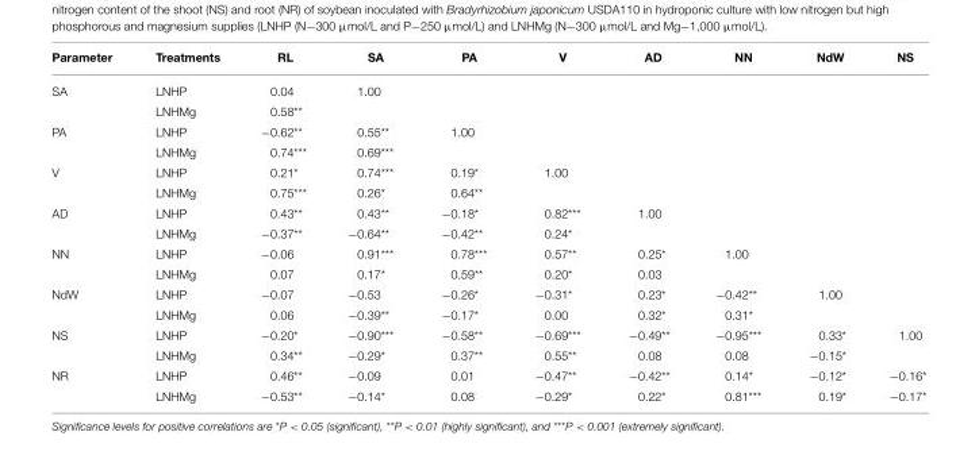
<table><thead><tr><td>Parameter</td><td>Treatments</td><td>RL</td><td>SA</td><td>PA</td><td>V</td><td>AD</td><td>NN</td><td>NdW</td><td>NS</td></tr></thead><tbody><tr><td rowspan="2">SA</td><td>LNHP</td><td>0.04</td><td>1.00</td><td></td><td></td><td></td><td></td><td></td><td></td></tr><tr><td>LNHMg</td><td>0.58**</td><td></td><td></td><td></td><td></td><td></td><td></td><td></td></tr><tr><td rowspan="2">PA</td><td>LNHP</td><td>−0.62**</td><td>0.55**</td><td>1.00</td><td></td><td></td><td></td><td></td><td></td></tr><tr><td>LNHMg</td><td>0.74***</td><td>0.69***</td><td></td><td></td><td></td><td></td><td></td><td></td></tr><tr><td rowspan="2">V</td><td>LNHP</td><td>0.21*</td><td>0.74***</td><td>0.19*</td><td>1.00</td><td></td><td></td><td></td><td></td></tr><tr><td>LNHMg</td><td>0.75***</td><td>0.26*</td><td>0.64**</td><td></td><td></td><td></td><td></td><td></td></tr><tr><td rowspan="2">AD</td><td>LNHP</td><td>0.43**</td><td>0.43**</td><td>−0.18*</td><td>0.82***</td><td>1.00</td><td></td><td></td><td></td></tr><tr><td>LNHMg</td><td>−0.37**</td><td>−0.64**</td><td>−0.42**</td><td>0.24*</td><td></td><td></td><td></td><td></td></tr><tr><td rowspan="2">NN</td><td>LNHP</td><td>−0.06</td><td>0.91***</td><td>0.78***</td><td>0.57**</td><td>0.25*</td><td>1.00</td><td></td><td></td></tr><tr><td>LNHMg</td><td>0.07</td><td>0.17*</td><td>0.59**</td><td>0.20*</td><td>0.03</td><td></td><td></td><td></td></tr><tr><td rowspan="2">NdW</td><td>LNHP</td><td>−0.07</td><td>−0.53</td><td>−0.26*</td><td>−0.31*</td><td>0.23*</td><td>−0.42**</td><td>1.00</td><td></td></tr><tr><td>LNHMg</td><td>0.06</td><td>−0.39**</td><td>−0.17*</td><td>0.00</td><td>0.32*</td><td>0.31*</td><td></td><td></td></tr><tr><td rowspan="2">NS</td><td>LNHP</td><td>−0.20*</td><td>−0.90***</td><td>−0.58**</td><td>−0.69***</td><td>−0.49**</td><td>−0.95***</td><td>0.33*</td><td>1.00</td></tr><tr><td>LNHMg</td><td>0.34**</td><td>−0.29*</td><td>0.37**</td><td>0.55**</td><td>0.08</td><td>0.08</td><td>−0.15*</td><td></td></tr><tr><td rowspan="2">NR</td><td>LNHP</td><td>0.46**</td><td>−0.09</td><td>0.01</td><td>−0.47**</td><td>−0.42**</td><td>0.14*</td><td>−0.12*</td><td>−0.16*</td></tr><tr><td>LNHMg</td><td>−0.53**</td><td>−0.14*</td><td>0.08</td><td>−0.29*</td><td>0.22*</td><td>0.81***</td><td>0.19*</td><td>−0.17*</td></tr></tbody></table>